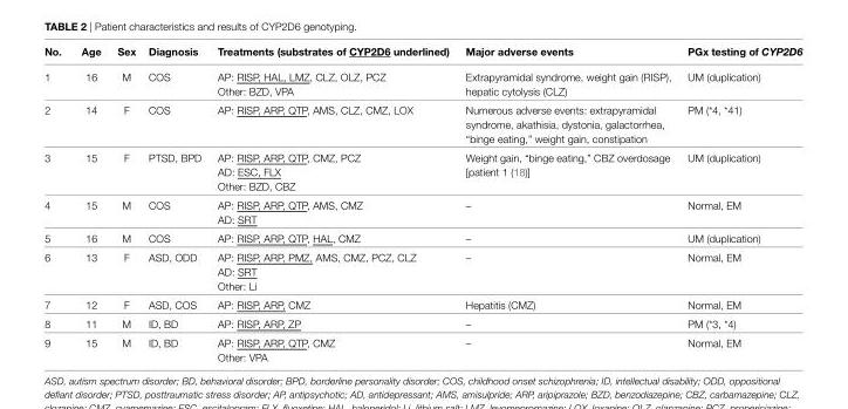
<table><thead><tr><td>No.</td><td>age</td><td>sex</td><td>Diagnosis</td><td>treatments (substrates of CYp2D6 underlined)</td><td>Major adverse events</td><td>pGx testing of CYP2D6</td></tr></thead><tbody><tr><td rowspan="2">1</td><td rowspan="2">16</td><td rowspan="2">M</td><td rowspan="2">COS</td><td>AP: RISP, HAL, LMZ, CLZ, OLZ, PCZ</td><td rowspan="2">Extrapyramidal syndrome, weight gain (RISP), hepatic cytolysis (CLZ)</td><td rowspan="2">UM (duplication)</td></tr><tr><td>Other: BZD, VPA</td></tr><tr><td>2</td><td>14</td><td>F</td><td>COS</td><td>AP: RISP, ARP, QTP, AMS, CLZ, CMZ, LOX</td><td>Numerous adverse events: extrapyramidal syndrome, akathisia, dystonia, galactorrhea, “binge eating,” weight gain, constipation</td><td>PM (*4, *41)</td></tr><tr><td rowspan="3">3</td><td rowspan="3">15</td><td rowspan="3">F</td><td rowspan="3">PTSD, BPD</td><td>AP: RISP, ARP, QTP, CMZ, PCZ</td><td rowspan="3">Weight gain, “binge eating,” CBZ overdosage [patient 1 (18)]</td><td rowspan="3">UM (duplication)</td></tr><tr><td>AD: ESC, FLX</td></tr><tr><td>Other: BZD, CBZ</td></tr><tr><td rowspan="2">4</td><td rowspan="2">15</td><td rowspan="2">M</td><td rowspan="2">COS</td><td>AP: RISP, ARP, QTP, AMS, CMZ</td><td rowspan="2">–</td><td rowspan="2">Normal, EM</td></tr><tr><td>AD: SRT</td></tr><tr><td>5</td><td>16</td><td>M</td><td>COS</td><td>AP: RISP, ARP, QTP, HAL, CMZ</td><td>–</td><td>UM (duplication)</td></tr><tr><td rowspan="3">6</td><td rowspan="3">13</td><td rowspan="3">F</td><td rowspan="3">ASD, ODD</td><td>AP: RISP, ARP, PMZ, AMS, CMZ, PCZ, CLZ</td><td rowspan="3">–</td><td rowspan="3">Normal, EM</td></tr><tr><td>AD: SRT</td></tr><tr><td>Other: Li</td></tr><tr><td>7</td><td>12</td><td>F</td><td>ASD, COS</td><td>AP: RISP, ARP, CMZ</td><td>Hepatitis (CMZ)</td><td>Normal, EM</td></tr><tr><td>8</td><td>11</td><td>M</td><td>ID, BD</td><td>AP: RISP, ARP, ZP</td><td>–</td><td>PM (*3, *4)</td></tr><tr><td rowspan="2">9</td><td rowspan="2">15</td><td rowspan="2">M</td><td rowspan="2">ID, BD</td><td>AP: RISP, ARP, QTP, CMZ</td><td rowspan="2">–</td><td rowspan="2">Normal, EM</td></tr><tr><td>Other: VPA</td></tr></tbody></table>